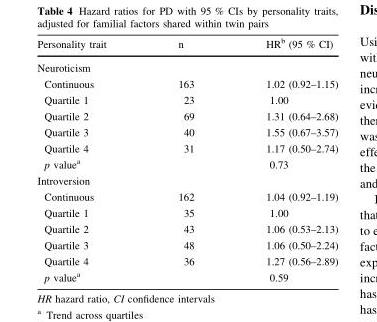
<table><thead><tr><td>Personality trait</td><td>n</td><td>HR<sup>b</sup> (95 % CI)</td></tr></thead><tbody><tr><td colspan="3">Neuroticism</td></tr><tr><td>Continuous</td><td>163</td><td>1.02 (0.92–1.15)</td></tr><tr><td>Quartile 1</td><td>23</td><td>1.00</td></tr><tr><td>Quartile 2</td><td>69</td><td>1.31 (0.64–2.68)</td></tr><tr><td>Quartile 3</td><td>40</td><td>1.55 (0.67–3.57)</td></tr><tr><td>Quartile 4</td><td>31</td><td>1.17 (0.50–2.74)</td></tr><tr><td>p value<sup>a</sup></td><td></td><td>0.73</td></tr><tr><td colspan="3">Introversion</td></tr><tr><td>Continuous</td><td>162</td><td>1.04 (0.92–1.19)</td></tr><tr><td>Quartile 1</td><td>35</td><td>1.00</td></tr><tr><td>Quartile 2</td><td>43</td><td>1.06 (0.53–2.13)</td></tr><tr><td>Quartile 3</td><td>48</td><td>1.06 (0.50–2.24)</td></tr><tr><td>Quartile 4</td><td>36</td><td>1.27 (0.56–2.89)</td></tr><tr><td>p value<sup>a</sup></td><td></td><td>0.59</td></tr></tbody></table>